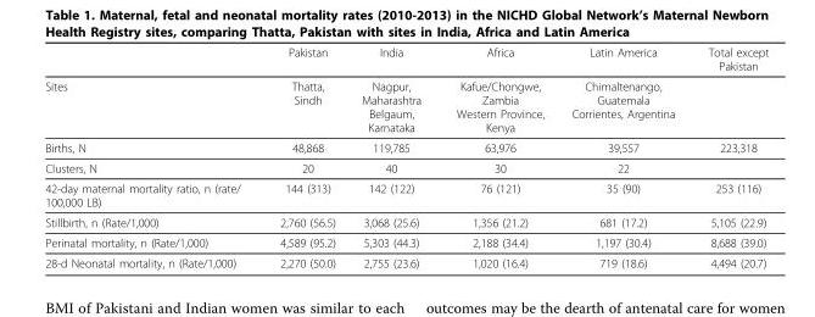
<table><thead><tr><td></td><td>Pakistan</td><td>India</td><td>Africa</td><td>Latin America</td><td>Total except Pakistan</td></tr></thead><tbody><tr><td>Sites</td><td>Thatta, Sindh</td><td>Nagpur, Maharashtra Belgaum, Karnataka</td><td>Kafue/Chongwe, Zambia Western Province, Kenya</td><td>Chimaltenango, Guatemala Corrientes, Argentina</td><td></td></tr><tr><td>Births, N</td><td>48,868</td><td>119,785</td><td>63,976</td><td>39,557</td><td>223,318</td></tr><tr><td>Clusters, N</td><td>20</td><td>40</td><td>30</td><td>22</td><td></td></tr><tr><td>42-day maternal mortality ratio, n (rate/ 100,000 LB)</td><td>144 (313)</td><td>142 (122)</td><td>76 (121)</td><td>35 (90)</td><td>253 (116)</td></tr><tr><td>Stillbirth, n (Rate/1,000)</td><td>2,760 (56.5)</td><td>3,068 (25.6)</td><td>1,356 (21.2)</td><td>681 (17.2)</td><td>5,105 (22.9)</td></tr><tr><td>Perinatal mortality, n (Rate/1,000)</td><td>4,589 (95.2)</td><td>5,303 (44.3)</td><td>2,188 (34.4)</td><td>1,197 (30.4)</td><td>8,688 (39.0)</td></tr><tr><td>28-d Neonatal mortality, n (Rate/1,000)</td><td>2,270 (50.0)</td><td>2,755 (23.6)</td><td>1,020 (16.4)</td><td>719 (18.6)</td><td>4,494 (20.7)</td></tr></tbody></table>